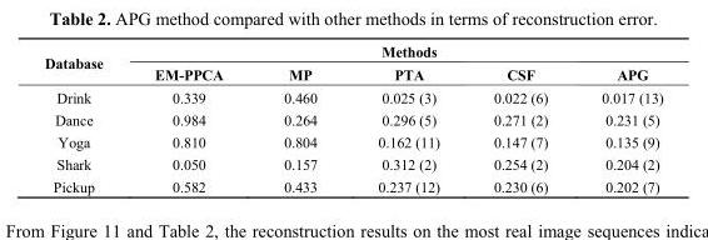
<table><thead><tr><td rowspan="2">Database</td><td colspan="5">Methods</td></tr><tr><td>EM-PPCA</td><td>MP</td><td>PTA</td><td>CSF</td><td>APG</td></tr></thead><tbody><tr><td>Drink</td><td>0.339</td><td>0.460</td><td>0.025 (3)</td><td>0.022 (6)</td><td>0.017 (13)</td></tr><tr><td>Dance</td><td>0.984</td><td>0.264</td><td>0.296 (5)</td><td>0.271 (2)</td><td>0.231 (5)</td></tr><tr><td>Yoga</td><td>0.810</td><td>0.804</td><td>0.162 (11)</td><td>0.147 (7)</td><td>0.135 (9)</td></tr><tr><td>Shark</td><td>0.050</td><td>0.157</td><td>0.312 (2)</td><td>0.254 (2)</td><td>0.204 (2)</td></tr><tr><td>Pickup</td><td>0.582</td><td>0.433</td><td>0.237 (12)</td><td>0.230 (6)</td><td>0.202 (7)</td></tr></tbody></table>